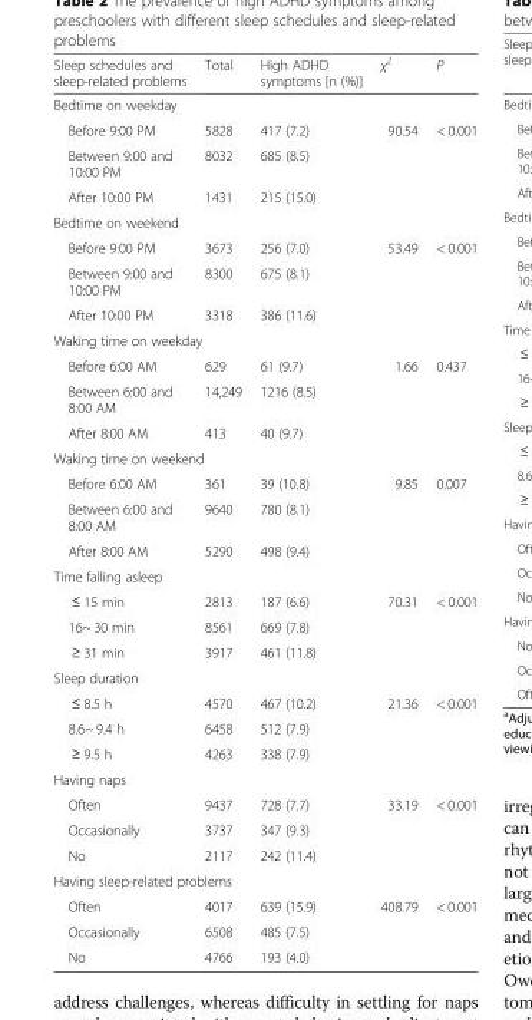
<table><thead><tr><td>Sleep schedules and sleep-related problems</td><td>Total</td><td>High ADHD symptoms [n (%)]</td><td>χ<sup>2</sup></td><td>P</td></tr></thead><tbody><tr><td colspan="5">Bedtime on weekday</td></tr><tr><td>Before 9:00 PM</td><td>5828</td><td>417 (7.2)</td><td>90.54</td><td>&lt; 0.001</td></tr><tr><td>Between 9:00 and 10:00 PM</td><td>8032</td><td>685 (8.5)</td><td></td><td></td></tr><tr><td>After 10:00 PM</td><td>1431</td><td>215 (15.0)</td><td></td><td></td></tr><tr><td colspan="5">Bedtime on weekend</td></tr><tr><td>Before 9:00 PM</td><td>3673</td><td>256 (7.0)</td><td>53.49</td><td>&lt; 0.001</td></tr><tr><td>Between 9:00 and 10:00 PM</td><td>8300</td><td>675 (8.1)</td><td></td><td></td></tr><tr><td>After 10:00 PM</td><td>3318</td><td>386 (11.6)</td><td></td><td></td></tr><tr><td colspan="5">Waking time on weekday</td></tr><tr><td>Before 6:00 AM</td><td>629</td><td>61 (9.7)</td><td>1.66</td><td>0.437</td></tr><tr><td>Between 6:00 and 8:00 AM</td><td>14,249</td><td>1216 (8.5)</td><td></td><td></td></tr><tr><td>After 8:00 AM</td><td>413</td><td>40 (9.7)</td><td></td><td></td></tr><tr><td colspan="5">Waking time on weekend</td></tr><tr><td>Before 6:00 AM</td><td>361</td><td>39 (10.8)</td><td>9.85</td><td>0.007</td></tr><tr><td>Between 6:00 and 8:00 AM</td><td>9640</td><td>780 (8.1)</td><td></td><td></td></tr><tr><td>After 8:00 AM</td><td>5290</td><td>498 (9.4)</td><td></td><td></td></tr><tr><td colspan="5">Time falling asleep</td></tr><tr><td>≤ 15 min</td><td>2813</td><td>187 (6.6)</td><td>70.31</td><td>&lt; 0.001</td></tr><tr><td>16~ 30 min</td><td>8561</td><td>669 (7.8)</td><td></td><td></td></tr><tr><td>≥ 31 min</td><td>3917</td><td>461 (11.8)</td><td></td><td></td></tr><tr><td colspan="5">Sleep duration</td></tr><tr><td>≤ 8.5 h</td><td>4570</td><td>467 (10.2)</td><td>21.36</td><td>&lt; 0.001</td></tr><tr><td>8.6~ 9.4 h</td><td>6458</td><td>512 (7.9)</td><td></td><td></td></tr><tr><td>≥ 9.5 h</td><td>4263</td><td>338 (7.9)</td><td></td><td></td></tr><tr><td colspan="5">Having naps</td></tr><tr><td>Often</td><td>9437</td><td>728 (7.7)</td><td>33.19</td><td>&lt; 0.001</td></tr><tr><td>Occasionally</td><td>3737</td><td>347 (9.3)</td><td></td><td></td></tr><tr><td>No</td><td>2117</td><td>242 (11.4)</td><td></td><td></td></tr><tr><td colspan="5">Having sleep-related problems</td></tr><tr><td>Often</td><td>4017</td><td>639 (15.9)</td><td>408.79</td><td>&lt; 0.001</td></tr><tr><td>Occasionally</td><td>6508</td><td>485 (7.5)</td><td></td><td></td></tr><tr><td>No</td><td>4766</td><td>193 (4.0)</td><td></td><td></td></tr></tbody></table>